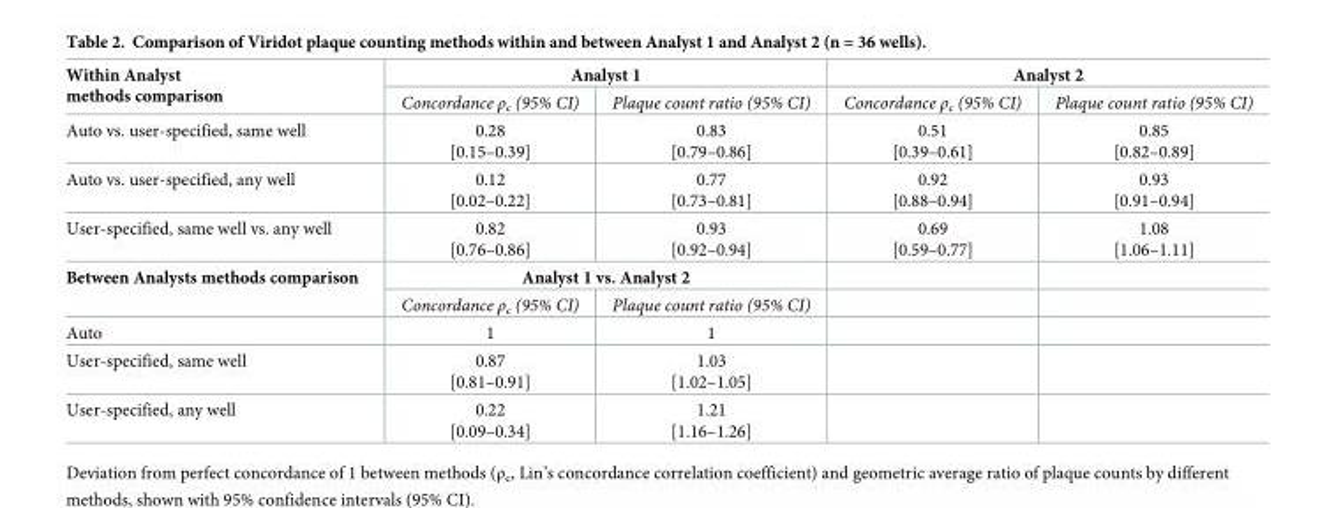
<table><tbody><tr><td rowspan="2">Within Analyst methods comparison</td><td colspan="2">Analyst 1</td><td colspan="2">Analyst 2</td></tr><tr><td>Concordance ρ<sub>c</sub> (95% CI)</td><td>Plaque count ratio (95% CI)</td><td>Concordance ρ<sub>c</sub> (95% CI)</td><td>Plaque count ratio (95% CI)</td></tr><tr><td>Auto vs. user-specified, same well</td><td>0.28 [0.15–0.39]</td><td>0.83 [0.79–0.86]</td><td>0.51 [0.39–0.61]</td><td>0.85 [0.82–0.89]</td></tr><tr><td>Auto vs. user-specified, any well</td><td>0.12 [0.02–0.22]</td><td>0.77 [0.73–0.81]</td><td>0.92 [0.88–0.94]</td><td>0.93 [0.91–0.94]</td></tr><tr><td>User-specified, same well vs. any well</td><td>0.82 [0.76–0.86]</td><td>0.93 [0.92–0.94]</td><td>0.69 [0.59–0.77]</td><td>1.08 [1.06–1.11]</td></tr><tr><td rowspan="2">Between Analysts methods comparison</td><td colspan="2">Analyst 1 vs. Analyst 2</td><td></td><td></td></tr><tr><td>Concordance ρ<sub>c</sub> (95% CI)</td><td>Plaque count ratio (95% CI)</td><td></td><td></td></tr><tr><td>Auto</td><td>1</td><td>1</td><td></td><td></td></tr><tr><td>User-specified, same well</td><td>0.87 [0.81–0.91]</td><td>1.03 [1.02–1.05]</td><td></td><td></td></tr><tr><td>User-specified, any well</td><td>0.22 [0.09–0.34]</td><td>1.21 [1.16–1.26]</td><td></td><td></td></tr></tbody></table>